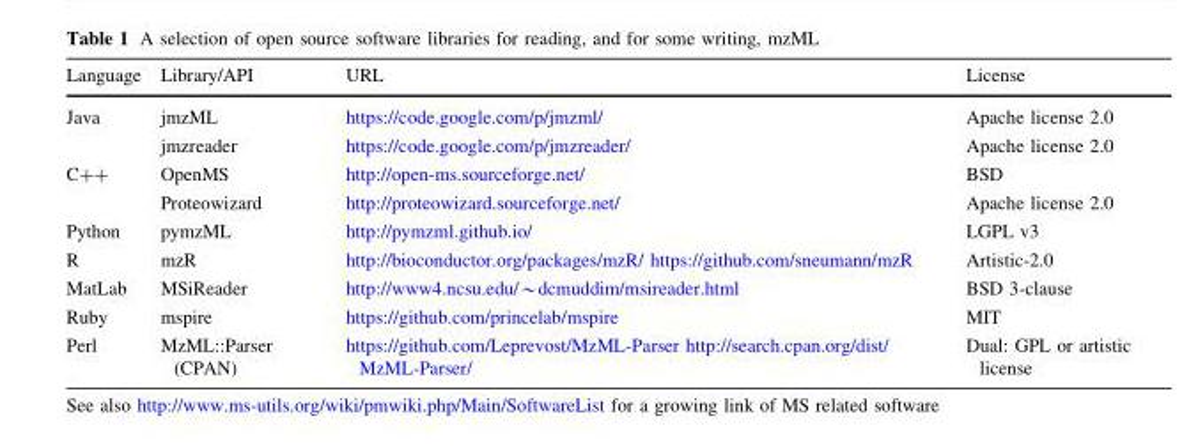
<table><thead><tr><td>Language</td><td>Library/API</td><td>URL</td><td>License</td></tr></thead><tbody><tr><td rowspan="2">Java</td><td>jmzML</td><td>https://code.google.com/p/jmzml/</td><td>Apache license 2.0</td></tr><tr><td>jmzreader</td><td>https://code.google.com/p/jmzreader/</td><td>Apache license 2.0</td></tr><tr><td rowspan="2">C++</td><td>OpenMS</td><td>http://open-ms.sourceforge.net/</td><td>BSD</td></tr><tr><td>Proteowizard</td><td>http://proteowizard.sourceforge.net/</td><td>Apache license 2.0</td></tr><tr><td>Python</td><td>pymzML</td><td>http://pymzml.github.io/</td><td>LGPL v3</td></tr><tr><td>R</td><td>mzR</td><td>http://bioconductor.org/packages/mzR/ https://github.com/sneumann/mzR</td><td>Artistic-2.0</td></tr><tr><td>MatLab</td><td>MSiReader</td><td>http://www4.ncsu.edu/*dcmuddim/msireader.html</td><td>BSD 3-clause</td></tr><tr><td>Ruby</td><td>mspire</td><td>https://github.com/princelab/mspire</td><td>MIT</td></tr><tr><td>Perl</td><td>MzML::Parser (CPAN)</td><td>https://github.com/Leprevost/MzML-Parser http://search.cpan.org/dist/ MzML-Parser/</td><td>Dual: GPL or artistic license</td></tr></tbody></table>